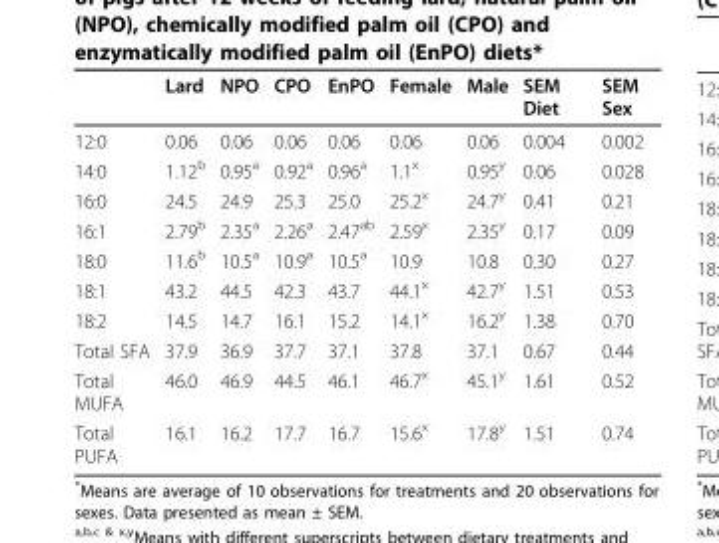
<table><thead><tr><td></td><td>Lard</td><td>NPO</td><td>CPO</td><td>EnPO</td><td>Female</td><td>Male</td><td>SEM Diet</td><td>SEM Sex</td></tr></thead><tbody><tr><td>12:0</td><td>0.06</td><td>0.06</td><td>0.06</td><td>0.06</td><td>0.06</td><td>0.06</td><td>0.004</td><td>0.002</td></tr><tr><td>14:0</td><td>1.12<sup>b</sup></td><td>0.95<sup>a</sup></td><td>0.92<sup>a</sup></td><td>0.96<sup>a</sup></td><td>1.1<sup>x</sup></td><td>0.95<sup>y</sup></td><td>0.06</td><td>0.028</td></tr><tr><td>16:0</td><td>24.5</td><td>24.9</td><td>25.3</td><td>25.0</td><td>25.2<sup>x</sup></td><td>24.7<sup>y</sup></td><td>0.41</td><td>0.21</td></tr><tr><td>16:1</td><td>2.79<sup>b</sup></td><td>2.35<sup>a</sup></td><td>2.26<sup>a</sup></td><td>2.47<sup>ab</sup></td><td>2.59<sup>x</sup></td><td>2.35<sup>y</sup></td><td>0.17</td><td>0.09</td></tr><tr><td>18:0</td><td>11.6<sup>b</sup></td><td>10.5<sup>a</sup></td><td>10.9<sup>a</sup></td><td>10.5<sup>a</sup></td><td>10.9</td><td>10.8</td><td>0.30</td><td>0.27</td></tr><tr><td>18:1</td><td>43.2</td><td>44.5</td><td>42.3</td><td>43.7</td><td>44.1<sup>x</sup></td><td>42.7<sup>y</sup></td><td>1.51</td><td>0.53</td></tr><tr><td>18:2</td><td>14.5</td><td>14.7</td><td>16.1</td><td>15.2</td><td>14.1<sup>x</sup></td><td>16.2<sup>y</sup></td><td>1.38</td><td>0.70</td></tr><tr><td>Total SFA</td><td>37.9</td><td>36.9</td><td>37.7</td><td>37.1</td><td>37.8</td><td>37.1</td><td>0.67</td><td>0.44</td></tr><tr><td>Total MUFA</td><td>46.0</td><td>46.9</td><td>44.5</td><td>46.1</td><td>46.7<sup>x</sup></td><td>45.1<sup>y</sup></td><td>1.61</td><td>0.52</td></tr><tr><td>Total PUFA</td><td>16.1</td><td>16.2</td><td>17.7</td><td>16.7</td><td>15.6<sup>x</sup></td><td>17.8<sup>y</sup></td><td>1.51</td><td>0.74</td></tr></tbody></table>